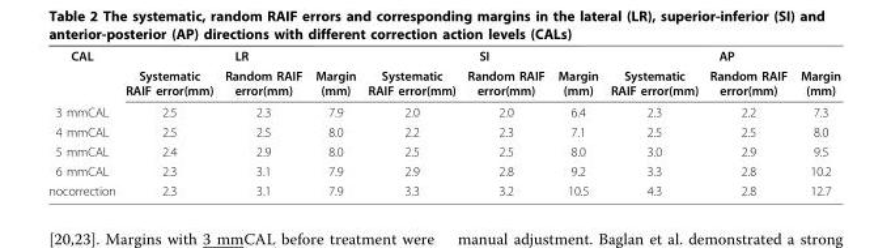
<table><tbody><tr><td rowspan="2">CAL</td><td colspan="3">LR</td><td colspan="3">SI</td><td colspan="3">AP</td></tr><tr><td>Systematic RAIF error(mm)</td><td>Random RAIF error(mm)</td><td>Margin (mm)</td><td>Systematic RAIF error(mm)</td><td>Random RAIF error(mm)</td><td>Margin (mm)</td><td>Systematic RAIF error(mm)</td><td>Random RAIF error(mm)</td><td>Margin (mm)</td></tr><tr><td>3 mmCAL</td><td>2.5</td><td>2.3</td><td>7.9</td><td>2.0</td><td>2.0</td><td>6.4</td><td>2.3</td><td>2.2</td><td>7.3</td></tr><tr><td>4 mmCAL</td><td>2.5</td><td>2.5</td><td>8.0</td><td>2.2</td><td>2.3</td><td>7.1</td><td>2.5</td><td>2.5</td><td>8.0</td></tr><tr><td>5 mmCAL</td><td>2.4</td><td>2.9</td><td>8.0</td><td>2.5</td><td>2.5</td><td>8.0</td><td>3.0</td><td>2.9</td><td>9.5</td></tr><tr><td>6 mmCAL</td><td>2.3</td><td>3.1</td><td>7.9</td><td>2.9</td><td>2.8</td><td>9.2</td><td>3.3</td><td>2.8</td><td>10.2</td></tr><tr><td>nocorrection</td><td>2.3</td><td>3.1</td><td>7.9</td><td>3.3</td><td>3.2</td><td>10.5</td><td>4.3</td><td>2.8</td><td>12.7</td></tr></tbody></table>